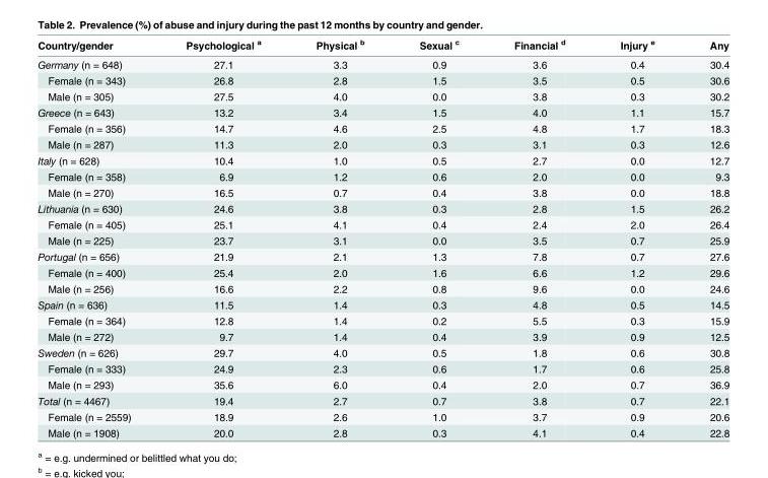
<table><thead><tr><td>Country/gender</td><td>Psychological <sup>a</sup></td><td>Physical <sup>b</sup></td><td>Sexual <sup>c</sup></td><td>Financial <sup>d</sup></td><td>Injury <sup>e</sup></td><td>Any</td></tr></thead><tbody><tr><td>Germany (n = 648)</td><td>27.1</td><td>3.3</td><td>0.9</td><td>3.6</td><td>0.4</td><td>30.4</td></tr><tr><td>Female (n = 343)</td><td>26.8</td><td>2.8</td><td>1.5</td><td>3.5</td><td>0.5</td><td>30.6</td></tr><tr><td>Male (n = 305)</td><td>27.5</td><td>4.0</td><td>0.0</td><td>3.8</td><td>0.3</td><td>30.2</td></tr><tr><td>Greece (n = 643)</td><td>13.2</td><td>3.4</td><td>1.5</td><td>4.0</td><td>1.1</td><td>15.7</td></tr><tr><td>Female (n = 356)</td><td>14.7</td><td>4.6</td><td>2.5</td><td>4.8</td><td>1.7</td><td>18.3</td></tr><tr><td>Male (n = 287)</td><td>11.3</td><td>2.0</td><td>0.3</td><td>3.1</td><td>0.3</td><td>12.6</td></tr><tr><td>Italy (n = 628)</td><td>10.4</td><td>1.0</td><td>0.5</td><td>2.7</td><td>0.0</td><td>12.7</td></tr><tr><td>Female (n = 358)</td><td>6.9</td><td>1.2</td><td>0.6</td><td>2.0</td><td>0.0</td><td>9.3</td></tr><tr><td>Male (n = 270)</td><td>16.5</td><td>0.7</td><td>0.4</td><td>3.8</td><td>0.0</td><td>18.8</td></tr><tr><td>Lithuania (n = 630)</td><td>24.6</td><td>3.8</td><td>0.3</td><td>2.8</td><td>1.5</td><td>26.2</td></tr><tr><td>Female (n = 405)</td><td>25.1</td><td>4.1</td><td>0.4</td><td>2.4</td><td>2.0</td><td>26.4</td></tr><tr><td>Male (n = 225)</td><td>23.7</td><td>3.1</td><td>0.0</td><td>3.5</td><td>0.7</td><td>25.9</td></tr><tr><td>Portugal (n = 656)</td><td>21.9</td><td>2.1</td><td>1.3</td><td>7.8</td><td>0.7</td><td>27.6</td></tr><tr><td>Female (n = 400)</td><td>25.4</td><td>2.0</td><td>1.6</td><td>6.6</td><td>1.2</td><td>29.6</td></tr><tr><td>Male (n = 256)</td><td>16.6</td><td>2.2</td><td>0.8</td><td>9.6</td><td>0.0</td><td>24.6</td></tr><tr><td>Spain (n = 636)</td><td>11.5</td><td>1.4</td><td>0.3</td><td>4.8</td><td>0.5</td><td>14.5</td></tr><tr><td>Female (n = 364)</td><td>12.8</td><td>1.4</td><td>0.2</td><td>5.5</td><td>0.3</td><td>15.9</td></tr><tr><td>Male (n = 272)</td><td>9.7</td><td>1.4</td><td>0.4</td><td>3.9</td><td>0.9</td><td>12.5</td></tr><tr><td>Sweden (n = 626)</td><td>29.7</td><td>4.0</td><td>0.5</td><td>1.8</td><td>0.6</td><td>30.8</td></tr><tr><td>Female (n = 333)</td><td>24.9</td><td>2.3</td><td>0.6</td><td>1.7</td><td>0.6</td><td>25.8</td></tr><tr><td>Male (n = 293)</td><td>35.6</td><td>6.0</td><td>0.4</td><td>2.0</td><td>0.7</td><td>36.9</td></tr><tr><td>Total (n = 4467)</td><td>19.4</td><td>2.7</td><td>0.7</td><td>3.8</td><td>0.7</td><td>22.1</td></tr><tr><td>Female (n = 2559)</td><td>18.9</td><td>2.6</td><td>1.0</td><td>3.7</td><td>0.9</td><td>20.6</td></tr><tr><td>Male (n = 1908)</td><td>20.0</td><td>2.8</td><td>0.3</td><td>4.1</td><td>0.4</td><td>22.8</td></tr></tbody></table>